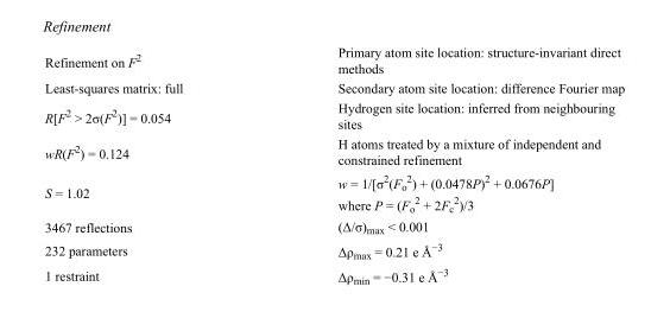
<table><tbody><tr><td>Refinement on F<sup>2</sup></td><td>Primary atom site location: structure-invariant direct methods</td></tr><tr><td>Least-squares matrix: full</td><td>Secondary atom site location: difference Fourier map</td></tr><tr><td>R[F<sup>2</sup> &gt; 2σ(F<sup>2</sup>)] = 0.054</td><td>Hydrogen site location: inferred from neighbouring sites</td></tr><tr><td>wR(F<sup>2</sup>) = 0.124</td><td>H atoms treated by a mixture of independent and constrained refinement</td></tr><tr><td>S = 1.02</td><td>w = 1/[σ<sup>2</sup>(F<sub>o</sub> <sup>2</sup>) + (0.0478P)<sup>2</sup> + 0.0676P] where P = (F<sub>o</sub> <sup>2</sup> + 2F<sub>c</sub> <sup>2</sup>)/3</td></tr><tr><td>3467 reflections</td><td>(Δ/σ)<sub>max</sub> &lt; 0.001</td></tr><tr><td>232 parameters</td><td>Δρ<sub>max</sub> = 0.21 e Å<sup>−3</sup></td></tr><tr><td>1 restraint</td><td>Δρ<sub>min</sub> = −0.31 e Å<sup>−3</sup></td></tr></tbody></table>